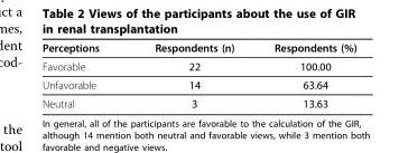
<table><thead><tr><td>Perceptions</td><td>Respondents (n)</td><td>Respondents (%)</td></tr></thead><tbody><tr><td>Favorable</td><td>22</td><td>100.00</td></tr><tr><td>Unfavorable</td><td>14</td><td>63.64</td></tr><tr><td>Neutral</td><td>3</td><td>13.63</td></tr></tbody></table>